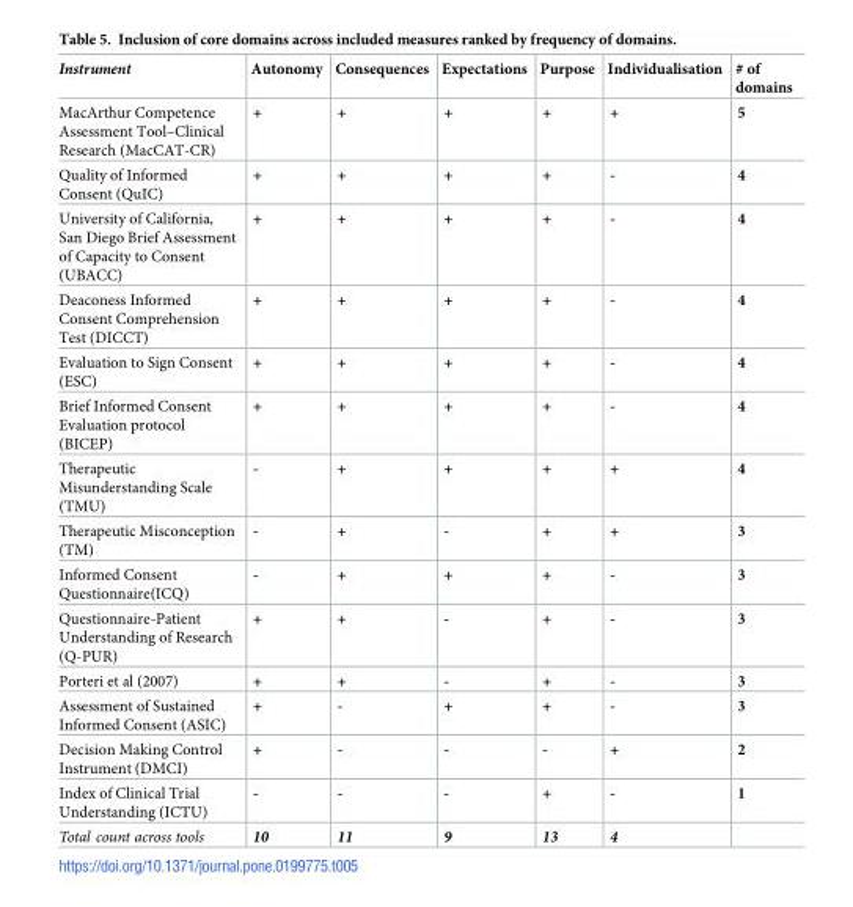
<table><thead><tr><td>Instrument</td><td>Autonomy</td><td>Consequences</td><td>Expectations</td><td>Purpose</td><td>Individualisation</td><td># of domains</td></tr></thead><tbody><tr><td>MacArthur Competence Assessment Tool–Clinical Research (MacCAT-CR)</td><td>+</td><td>+</td><td>+</td><td>+</td><td>+</td><td>5</td></tr><tr><td>Quality of Informed Consent (QuIC)</td><td>+</td><td>+</td><td>+</td><td>+</td><td>-</td><td>4</td></tr><tr><td>University of California, San Diego Brief Assessment of Capacity to Consent (UBACC)</td><td>+</td><td>+</td><td>+</td><td>+</td><td>-</td><td>4</td></tr><tr><td>Deaconess Informed Consent Comprehension Test (DICCT)</td><td>+</td><td>+</td><td>+</td><td>+</td><td>-</td><td>4</td></tr><tr><td>Evaluation to Sign Consent (ESC)</td><td>+</td><td>+</td><td>+</td><td>+</td><td>-</td><td>4</td></tr><tr><td>Brief Informed Consent Evaluation protocol (BICEP)</td><td>+</td><td>+</td><td>+</td><td>+</td><td>-</td><td>4</td></tr><tr><td>Therapeutic Misunderstanding Scale (TMU)</td><td>-</td><td>+</td><td>+</td><td>+</td><td>+</td><td>4</td></tr><tr><td>Therapeutic Misconception (TM)</td><td>-</td><td>+</td><td>-</td><td>+</td><td>+</td><td>3</td></tr><tr><td>Informed Consent Questionnaire(ICQ)</td><td>-</td><td>+</td><td>+</td><td>+</td><td>-</td><td>3</td></tr><tr><td>Questionnaire-Patient Understanding of Research (Q-PUR)</td><td>+</td><td>+</td><td>-</td><td>+</td><td>-</td><td>3</td></tr><tr><td>Porteri et al (2007)</td><td>+</td><td>+</td><td>-</td><td>+</td><td>-</td><td>3</td></tr><tr><td>Assessment of Sustained Informed Consent (ASIC)</td><td>+</td><td>-</td><td>+</td><td>+</td><td>-</td><td>3</td></tr><tr><td>Decision Making Control Instrument (DMCI)</td><td>+</td><td>-</td><td>-</td><td>-</td><td>+</td><td>2</td></tr><tr><td>Index of Clinical Trial Understanding (ICTU)</td><td>-</td><td>-</td><td>-</td><td>+</td><td>-</td><td>1</td></tr><tr><td>Total count across tools</td><td>10</td><td>11</td><td>9</td><td>13</td><td>4</td><td></td></tr></tbody></table>